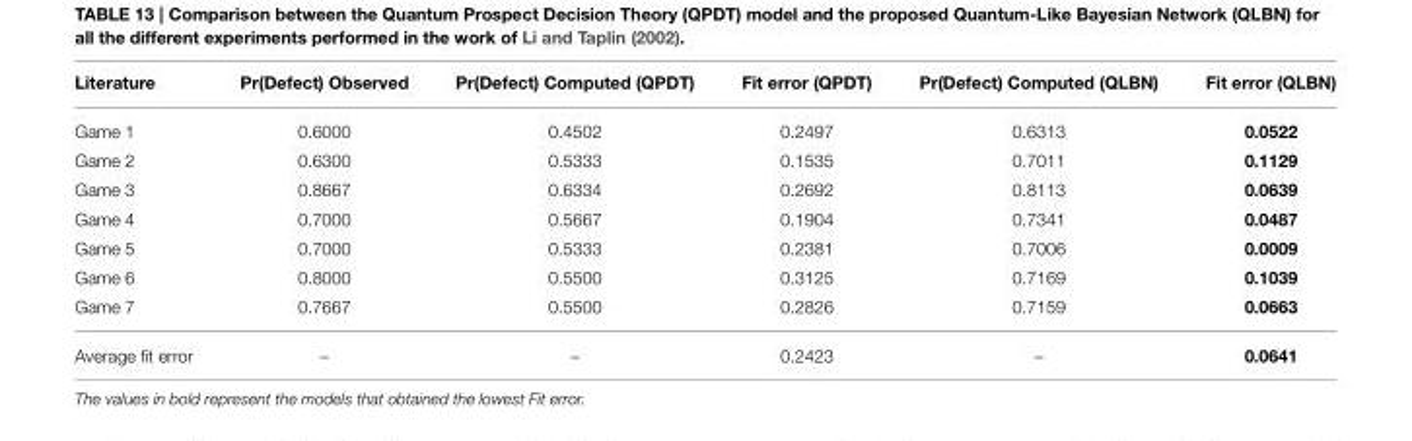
<table><thead><tr><td>Literature</td><td>Pr(Defect) Observed</td><td>Pr(Defect) Computed (QPDT)</td><td>Fit error (QPDT)</td><td>Pr(Defect) Computed (QLBN)</td><td>Fit error (QLBN)</td></tr></thead><tbody><tr><td>Game 1</td><td>0.6000</td><td>0.4502</td><td>0.2497</td><td>0.6313</td><td>0.0522</td></tr><tr><td>Game 2</td><td>0.6300</td><td>0.5333</td><td>0.1535</td><td>0.7011</td><td>0.1129</td></tr><tr><td>Game 3</td><td>0.8667</td><td>0.6334</td><td>0.2692</td><td>0.8113</td><td>0.0639</td></tr><tr><td>Game 4</td><td>0.7000</td><td>0.5667</td><td>0.1904</td><td>0.7341</td><td>0.0487</td></tr><tr><td>Game 5</td><td>0.7000</td><td>0.5333</td><td>0.2381</td><td>0.7006</td><td>0.0009</td></tr><tr><td>Game 6</td><td>0.8000</td><td>0.5500</td><td>0.3125</td><td>0.7169</td><td>0.1039</td></tr><tr><td>Game 7</td><td>0.7667</td><td>0.5500</td><td>0.2826</td><td>0.7159</td><td>0.0663</td></tr><tr><td>Average fit error</td><td>–</td><td>–</td><td>0.2423</td><td>–</td><td>0.0641</td></tr></tbody></table>